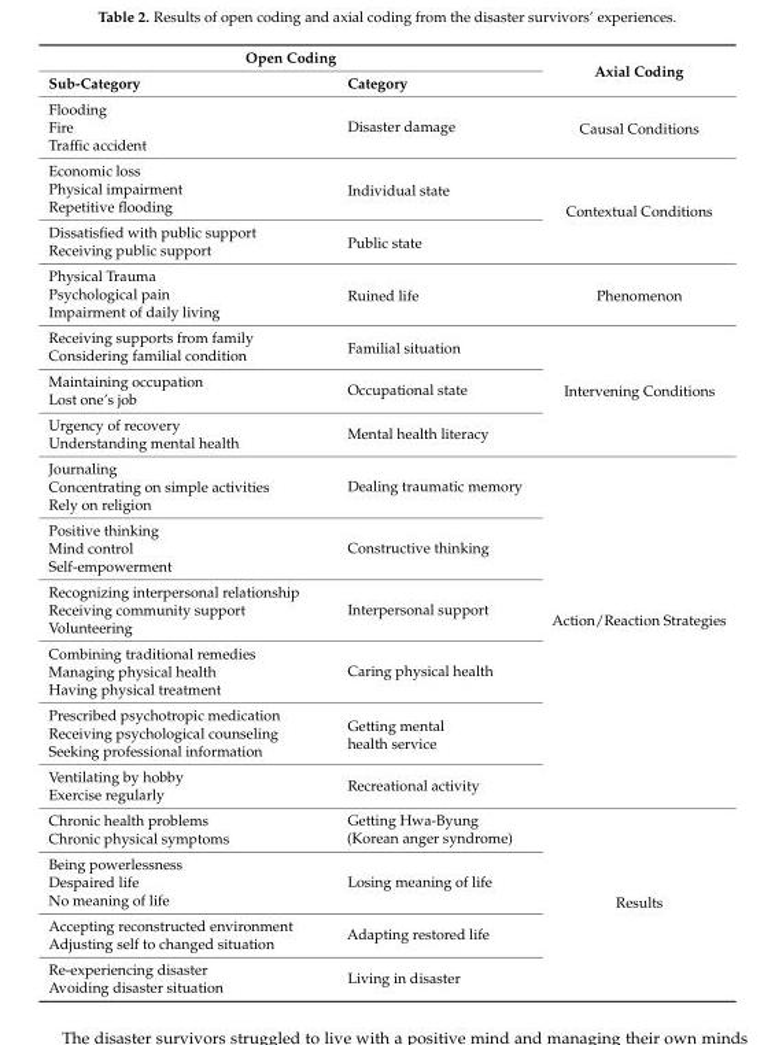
<table><thead><tr><td colspan="2">Open Coding</td><td rowspan="2">Axial Coding</td></tr><tr><td>Sub-Category</td><td>Category</td></tr></thead><tbody><tr><td>Flooding</td><td rowspan="3">Disaster damage</td><td rowspan="3">Causal Conditions</td></tr><tr><td>Fire</td></tr><tr><td>Traffic accident</td></tr><tr><td>Economic loss</td><td rowspan="3">Individual state</td><td rowspan="5">Contextual Conditions</td></tr><tr><td>Physical impairment</td></tr><tr><td>Repetitive flooding</td></tr><tr><td>Dissatisfied with public support</td><td rowspan="2">Public state</td></tr><tr><td>Receiving public support</td></tr><tr><td>Physical Trauma</td><td rowspan="3">Ruined life</td><td rowspan="3">Phenomenon</td></tr><tr><td>Psychological pain</td></tr><tr><td>Impairment of daily living</td></tr><tr><td>Receiving supports from family</td><td rowspan="2">Familial situation</td><td rowspan="6">Intervening Conditions</td></tr><tr><td>Considering familial condition</td></tr><tr><td>Maintaining occupation</td><td rowspan="2">Occupational state</td></tr><tr><td>Lost one’s job</td></tr><tr><td>Urgency of recovery</td><td rowspan="2">Mental health literacy</td></tr><tr><td>Understanding mental health</td></tr><tr><td>Journaling</td><td rowspan="3">Dealing traumatic memory</td><td rowspan="17">Action/Reaction Strategies</td></tr><tr><td>Concentrating on simple activities</td></tr><tr><td>Rely on religion</td></tr><tr><td>Positive thinking</td><td rowspan="3">Constructive thinking</td></tr><tr><td>Mind control</td></tr><tr><td>Self-empowerment</td></tr><tr><td>Recognizing interpersonal relationship</td><td rowspan="3">Interpersonal support</td></tr><tr><td>Receiving community support</td></tr><tr><td>Volunteering</td></tr><tr><td>Combining traditional remedies</td><td rowspan="3">Caring physical health</td></tr><tr><td>Managing physical health</td></tr><tr><td>Having physical treatment</td></tr><tr><td>Prescribed psychotropic medication</td><td rowspan="3">Getting mental health service</td></tr><tr><td>Receiving psychological counseling</td></tr><tr><td>Seeking professional information</td></tr><tr><td>Ventilating by hobby</td><td rowspan="2">Recreational activity</td></tr><tr><td>Exercise regularly</td></tr><tr><td>Chronic health problems</td><td rowspan="2">Getting Hwa-Byung (Korean anger syndrome)</td><td rowspan="9">Results</td></tr><tr><td>Chronic physical symptoms</td></tr><tr><td>Being powerlessness</td><td rowspan="3">Losing meaning of life</td></tr><tr><td>Despaired life</td></tr><tr><td>No meaning of life</td></tr><tr><td>Accepting reconstructed environment</td><td rowspan="2">Adapting restored life</td></tr><tr><td>Adjusting self to changed situation</td></tr><tr><td>Re-experiencing disaster</td><td rowspan="2">Living in disaster</td></tr><tr><td>Avoiding disaster situation</td></tr></tbody></table>